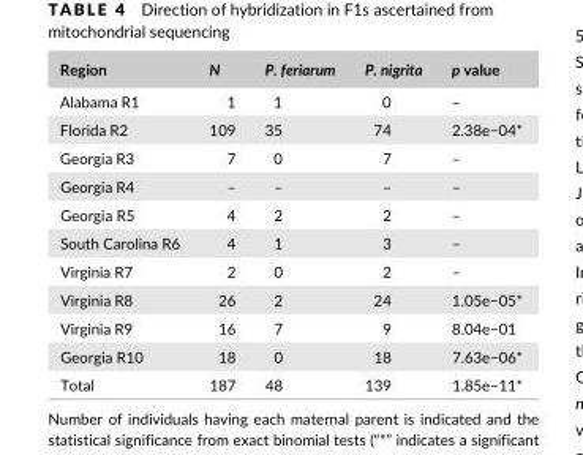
<table><thead><tr><td>Region</td><td>N</td><td>P. feriarum</td><td>P. nigrita</td><td>p value</td></tr></thead><tbody><tr><td>Alabama R1</td><td>1</td><td>1</td><td>0</td><td>–</td></tr><tr><td>Florida R2</td><td>109</td><td>35</td><td>74</td><td>2.38e−04*</td></tr><tr><td>Georgia R3</td><td>7</td><td>0</td><td>7</td><td>–</td></tr><tr><td>Georgia R4</td><td>–</td><td>–</td><td>–</td><td>–</td></tr><tr><td>Georgia R5</td><td>4</td><td>2</td><td>2</td><td>–</td></tr><tr><td>South Carolina R6</td><td>4</td><td>1</td><td>3</td><td>–</td></tr><tr><td>Virginia R7</td><td>2</td><td>0</td><td>2</td><td>–</td></tr><tr><td>Virginia R8</td><td>26</td><td>2</td><td>24</td><td>1.05e−05*</td></tr><tr><td>Virginia R9</td><td>16</td><td>7</td><td>9</td><td>8.04e−01</td></tr><tr><td>Georgia R10</td><td>18</td><td>0</td><td>18</td><td>7.63e−06*</td></tr><tr><td>Total</td><td>187</td><td>48</td><td>139</td><td>1.85e−11*</td></tr></tbody></table>